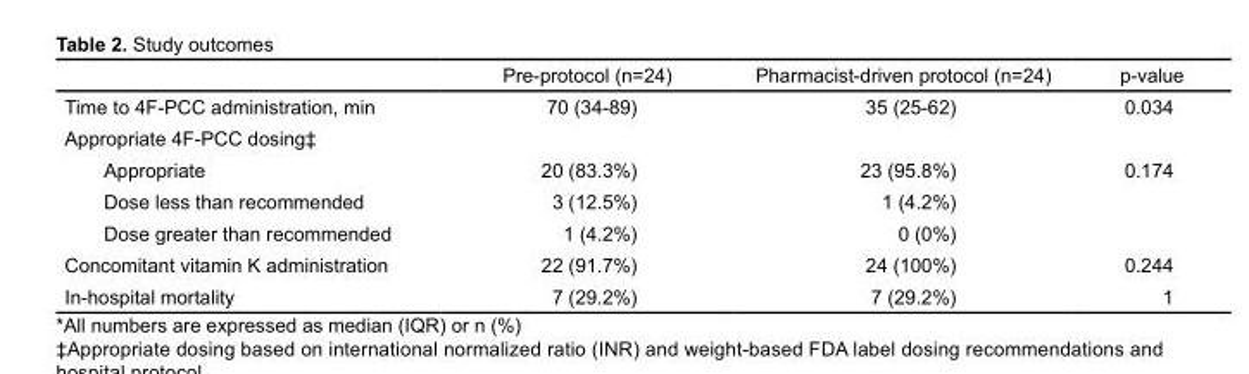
<table><thead><tr><td></td><td>Pre-protocol (n=24)</td><td>Pharmacist-driven protocol (n=24)</td><td>p-value</td></tr></thead><tbody><tr><td>Time to 4F-PCC administration, min</td><td>70 (34-89)</td><td>35 (25-62)</td><td>0.034</td></tr><tr><td colspan="4">Appropriate 4F-PCC dosing‡</td></tr><tr><td>Appropriate</td><td>20 (83.3%)</td><td>23 (95.8%)</td><td>0.174</td></tr><tr><td>Dose less than recommended</td><td>3 (12.5%)</td><td>1 (4.2%)</td><td></td></tr><tr><td>Dose greater than recommended</td><td>1 (4.2%)</td><td>0 (0%)</td><td></td></tr><tr><td>Concomitant vitamin K administration</td><td>22 (91.7%)</td><td>24 (100%)</td><td>0.244</td></tr><tr><td>In-hospital mortality</td><td>7 (29.2%)</td><td>7 (29.2%)</td><td>1</td></tr></tbody></table>